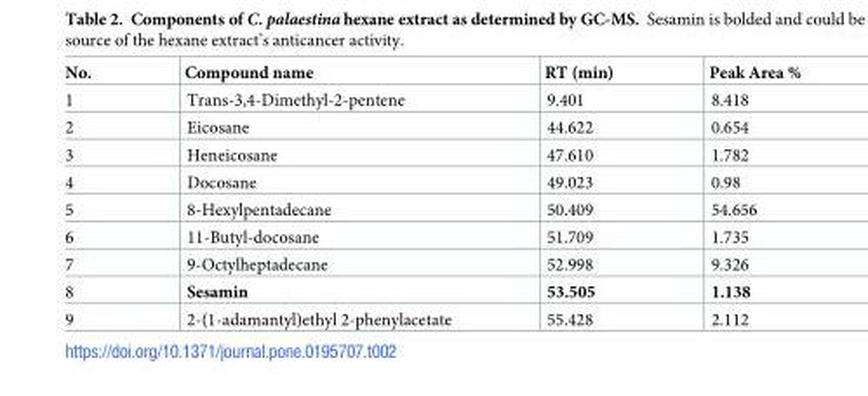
<table><thead><tr><td>No.</td><td>Compound name</td><td>RT (min)</td><td>Peak Area %</td></tr></thead><tbody><tr><td>1</td><td>Trans-3,4-Dimethyl-2-pentene</td><td>9.401</td><td>8.418</td></tr><tr><td>2</td><td>Eicosane</td><td>44.622</td><td>0.654</td></tr><tr><td>3</td><td>Heneicosane</td><td>47.610</td><td>1.782</td></tr><tr><td>4</td><td>Docosane</td><td>49.023</td><td>0.98</td></tr><tr><td>5</td><td>8-Hexylpentadecane</td><td>50.409</td><td>54.656</td></tr><tr><td>6</td><td>11-Butyl-docosane</td><td>51.709</td><td>1.735</td></tr><tr><td>7</td><td>9-Octylheptadecane</td><td>52.998</td><td>9.326</td></tr><tr><td>8</td><td>Sesamin</td><td>53.505</td><td>1.138</td></tr><tr><td>9</td><td>2-(1-adamantyl)ethyl 2-phenylacetate</td><td>55.428</td><td>2.112</td></tr></tbody></table>